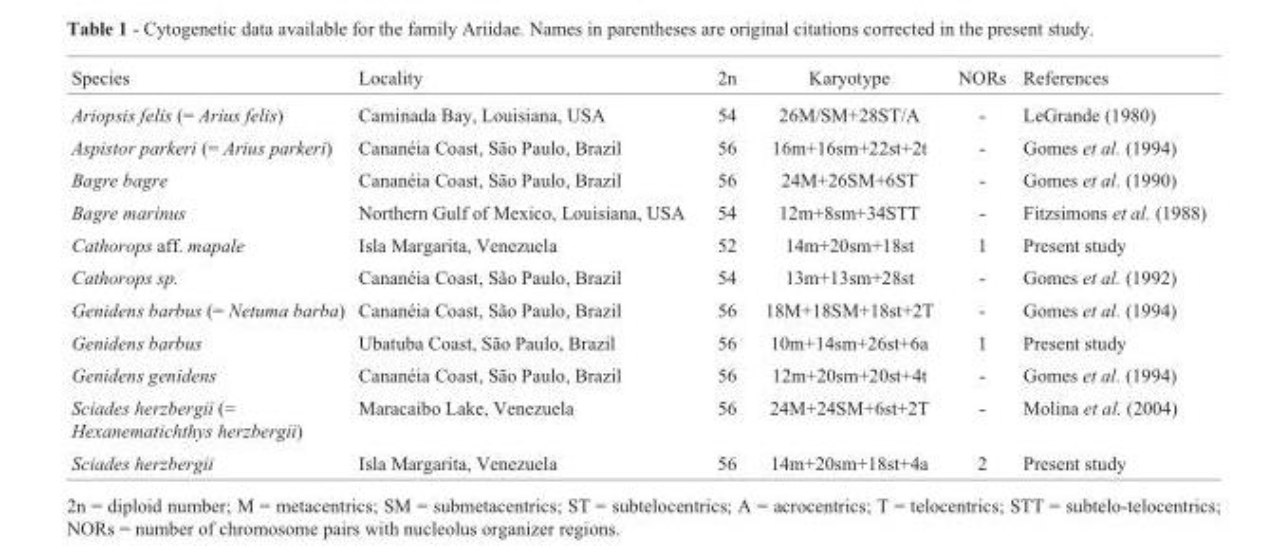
<table><thead><tr><td>Species</td><td>Locality</td><td>2n</td><td>Karyotype</td><td>NORs</td><td>References</td></tr></thead><tbody><tr><td>Ariopsis felis (= Arius felis)</td><td>Caminada Bay, Louisiana, USA</td><td>54</td><td>26M/SM+28ST/A</td><td>-</td><td>LeGrande (1980)</td></tr><tr><td>Aspistor parkeri (= Arius parkeri)</td><td>Cananéia Coast, São Paulo, Brazil</td><td>56</td><td>16m+16sm+22st+2t</td><td>-</td><td>Gomes et al. (1994)</td></tr><tr><td>Bagre bagre</td><td>Cananéia Coast, São Paulo, Brazil</td><td>56</td><td>24M+26SM+6ST</td><td>-</td><td>Gomes et al. (1990)</td></tr><tr><td>Bagre marinus</td><td>Northern Gulf of Mexico, Louisiana, USA</td><td>54</td><td>12m+8sm+34STT</td><td>-</td><td>Fitzsimons et al. (1988)</td></tr><tr><td>Cathorops aff. mapale</td><td>Isla Margarita, Venezuela</td><td>52</td><td>14m+20sm+18st</td><td>1</td><td>Present study</td></tr><tr><td>Cathorops sp.</td><td>Cananéia Coast, São Paulo, Brazil</td><td>54</td><td>13m+13sm+28st</td><td>-</td><td>Gomes et al. (1992)</td></tr><tr><td>Genidens barbus (= Netuma barba)</td><td>Cananéia Coast, São Paulo, Brazil</td><td>56</td><td>18M+18SM+18st+2T</td><td>-</td><td>Gomes et al. (1994)</td></tr><tr><td>Genidens barbus</td><td>Ubatuba Coast, São Paulo, Brazil</td><td>56</td><td>10m+14sm+26st+6a</td><td>1</td><td>Present study</td></tr><tr><td>Genidens genidens</td><td>Cananéia Coast, São Paulo, Brazil</td><td>56</td><td>12m+20sm+20st+4t</td><td>-</td><td>Gomes et al. (1994)</td></tr><tr><td>Sciades herzbergii (= Hexanematichthys herzbergii)</td><td>Maracaibo Lake, Venezuela</td><td>56</td><td>24M+24SM+6st+2T</td><td>-</td><td>Molina et al. (2004)</td></tr><tr><td>Sciades herzbergii</td><td>Isla Margarita, Venezuela</td><td>56</td><td>14m+20sm+18st+4a</td><td>2</td><td>Present study</td></tr></tbody></table>